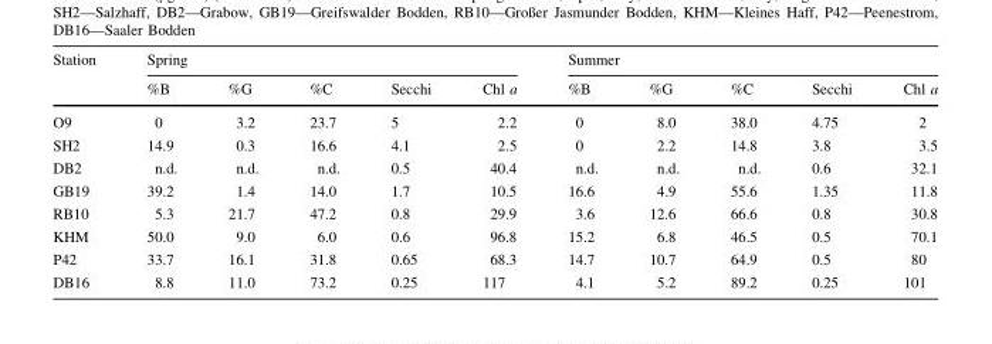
<table><thead><tr><td rowspan="2">Station</td><td colspan="5">Spring</td><td colspan="5">Summer</td></tr><tr><td>%B</td><td>%G</td><td>%C</td><td>Secchi</td><td>Chl a</td><td>%B</td><td>%G</td><td>%C</td><td>Secchi</td><td>Chl a</td></tr></thead><tbody><tr><td>O9</td><td>0</td><td>3.2</td><td>23.7</td><td>5</td><td>2.2</td><td>0</td><td>8.0</td><td>38.0</td><td>4.75</td><td>2</td></tr><tr><td>SH2</td><td>14.9</td><td>0.3</td><td>16.6</td><td>4.1</td><td>2.5</td><td>0</td><td>2.2</td><td>14.8</td><td>3.8</td><td>3.5</td></tr><tr><td>DB2</td><td>n.d.</td><td>n.d.</td><td>n.d.</td><td>0.5</td><td>40.4</td><td>n.d.</td><td>n.d.</td><td>n.d.</td><td>0.6</td><td>32.1</td></tr><tr><td>GB19</td><td>39.2</td><td>1.4</td><td>14.0</td><td>1.7</td><td>10.5</td><td>16.6</td><td>4.9</td><td>55.6</td><td>1.35</td><td>11.8</td></tr><tr><td>RB10</td><td>5.3</td><td>21.7</td><td>47.2</td><td>0.8</td><td>29.9</td><td>3.6</td><td>12.6</td><td>66.6</td><td>0.8</td><td>30.8</td></tr><tr><td>KHM</td><td>50.0</td><td>9.0</td><td>6.0</td><td>0.6</td><td>96.8</td><td>15.2</td><td>6.8</td><td>46.5</td><td>0.5</td><td>70.1</td></tr><tr><td>P42</td><td>33.7</td><td>16.1</td><td>31.8</td><td>0.65</td><td>68.3</td><td>14.7</td><td>10.7</td><td>64.9</td><td>0.5</td><td>80</td></tr><tr><td>DB16</td><td>8.8</td><td>11.0</td><td>73.2</td><td>0.25</td><td>117</td><td>4.1</td><td>5.2</td><td>89.2</td><td>0.25</td><td>101</td></tr></tbody></table>